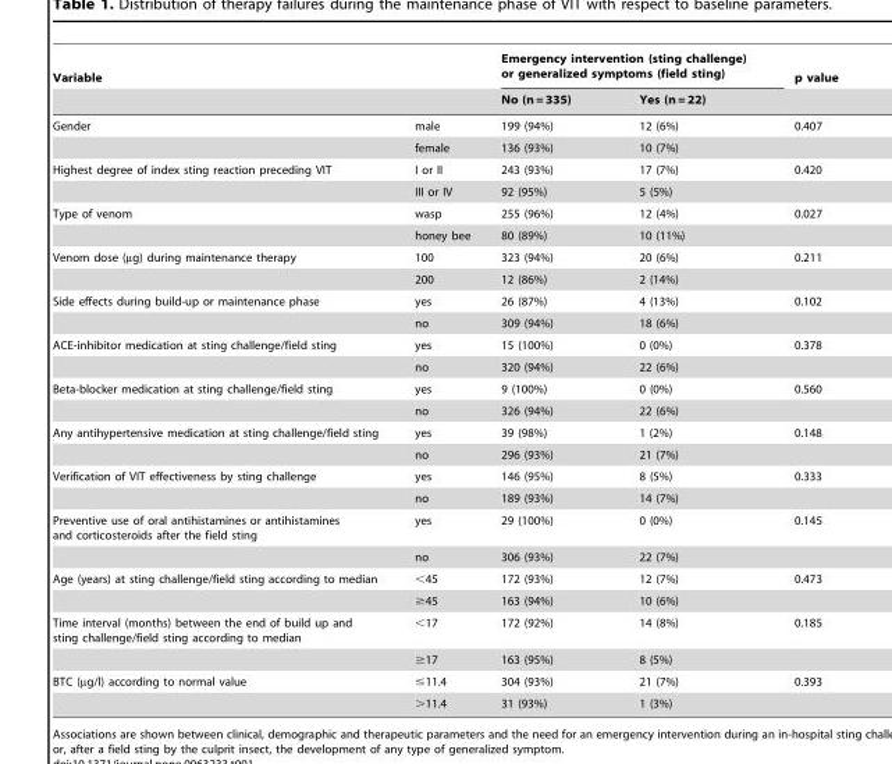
<table><thead><tr><td colspan="2">Variable</td><td colspan="2">Emergency intervention (sting challenge) or generalized symptoms (field sting)</td><td rowspan="2">p value</td></tr><tr><td></td><td></td><td>No (n = 335)</td><td>Yes (n = 22)</td></tr></thead><tbody><tr><td rowspan="2">Gender</td><td>male</td><td>199 (94%)</td><td>12 (6%)</td><td>0.407</td></tr><tr><td>female</td><td>136 (93%)</td><td>10 (7%)</td><td></td></tr><tr><td rowspan="2">Highest degree of index sting reaction preceding VIT</td><td>I or II</td><td>243 (93%)</td><td>17 (7%)</td><td>0.420</td></tr><tr><td>III or IV</td><td>92 (95%)</td><td>5 (5%)</td><td></td></tr><tr><td rowspan="2">Type of venom</td><td>wasp</td><td>255 (96%)</td><td>12 (4%)</td><td>0.027</td></tr><tr><td>honey bee</td><td>80 (89%)</td><td>10 (11%)</td><td></td></tr><tr><td rowspan="2">Venom dose (µg) during maintenance therapy</td><td>100</td><td>323 (94%)</td><td>20 (6%)</td><td>0.211</td></tr><tr><td>200</td><td>12 (86%)</td><td>2 (14%)</td><td></td></tr><tr><td rowspan="2">Side effects during build-up or maintenance phase</td><td>yes</td><td>26 (87%)</td><td>4 (13%)</td><td>0.102</td></tr><tr><td>no</td><td>309 (94%)</td><td>18 (6%)</td><td></td></tr><tr><td rowspan="2">ACE-inhibitor medication at sting challenge/field sting</td><td>yes</td><td>15 (100%)</td><td>0 (0%)</td><td>0.378</td></tr><tr><td>no</td><td>320 (94%)</td><td>22 (6%)</td><td></td></tr><tr><td rowspan="2">Beta-blocker medication at sting challenge/field sting</td><td>yes</td><td>9 (100%)</td><td>0 (0%)</td><td>0.560</td></tr><tr><td>no</td><td>326 (94%)</td><td>22 (6%)</td><td></td></tr><tr><td rowspan="2">Any antihypertensive medication at sting challenge/field sting</td><td>yes</td><td>39 (98%)</td><td>1 (2%)</td><td>0.148</td></tr><tr><td>no</td><td>296 (93%)</td><td>21 (7%)</td><td></td></tr><tr><td rowspan="2">Verification of VIT effectiveness by sting challenge</td><td>yes</td><td>146 (95%)</td><td>8 (5%)</td><td>0.333</td></tr><tr><td>no</td><td>189 (93%)</td><td>14 (7%)</td><td></td></tr><tr><td rowspan="2">Preventive use of oral antihistamines or antihistamines and corticosteroids after the field sting</td><td>yes</td><td>29 (100%)</td><td>0 (0%)</td><td>0.145</td></tr><tr><td>no</td><td>306 (93%)</td><td>22 (7%)</td><td></td></tr><tr><td rowspan="2">Age (years) at sting challenge/field sting according to median</td><td>&lt;45</td><td>172 (93%)</td><td>12 (7%)</td><td>0.473</td></tr><tr><td>≥45</td><td>163 (94%)</td><td>10 (6%)</td><td></td></tr><tr><td rowspan="2">Time interval (months) between the end of build up and sting challenge/field sting according to median</td><td>&lt;17</td><td>172 (92%)</td><td>14 (8%)</td><td>0.185</td></tr><tr><td>≥17</td><td>163 (95%)</td><td>8 (5%)</td><td></td></tr><tr><td rowspan="2">BTC (µg/l) according to normal value</td><td>≤11.4</td><td>304 (93%)</td><td>21 (7%)</td><td>0.393</td></tr><tr><td>&gt;11.4</td><td>31 (93%)</td><td>1 (3%)</td><td></td></tr></tbody></table>